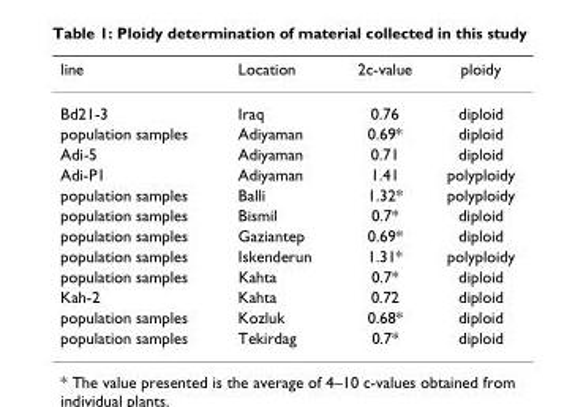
<table><thead><tr><td>line</td><td>Location</td><td>2c-value</td><td>ploidy</td></tr></thead><tbody><tr><td>Bd21-3</td><td>Iraq</td><td>0.76</td><td>diploid</td></tr><tr><td>population samples</td><td>Adiyaman</td><td>0.69*</td><td>diploid</td></tr><tr><td>Adi-5</td><td>Adiyaman</td><td>0.71</td><td>diploid</td></tr><tr><td>Adi-P1</td><td>Adiyaman</td><td>1.41</td><td>polyploidy</td></tr><tr><td>population samples</td><td>Balli</td><td>1.32*</td><td>polyploidy</td></tr><tr><td>population samples</td><td>Bismil</td><td>0.7*</td><td>diploid</td></tr><tr><td>population samples</td><td>Gaziantep</td><td>0.69*</td><td>diploid</td></tr><tr><td>population samples</td><td>Iskenderun</td><td>1.31*</td><td>polyploidy</td></tr><tr><td>population samples</td><td>Kahta</td><td>0.7*</td><td>diploid</td></tr><tr><td>Kah-2</td><td>Kahta</td><td>0.72</td><td>diploid</td></tr><tr><td>population samples</td><td>Kozluk</td><td>0.68*</td><td>diploid</td></tr><tr><td>population samples</td><td>Tekirdag</td><td>0.7*</td><td>diploid</td></tr></tbody></table>